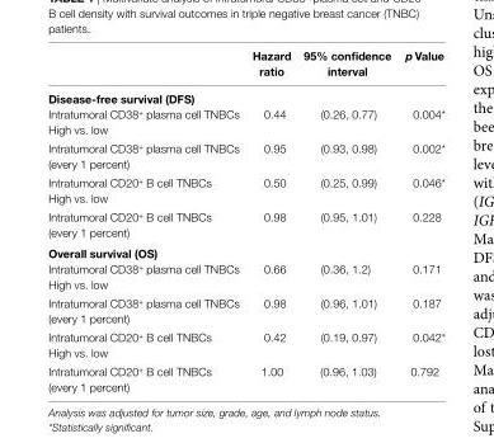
<table><thead><tr><td></td><td>hazard ratio</td><td>95% confidence interval</td><td>p Value</td></tr></thead><tbody><tr><td colspan="4">Disease-free survival (DFs)</td></tr><tr><td>Intratumoral CD38<sup>+</sup> plasma cell TNBCs High vs. low</td><td>0.44</td><td>(0.26, 0.77)</td><td>0.004*</td></tr><tr><td>Intratumoral CD38<sup>+</sup> plasma cell TNBCs (every 1 percent)</td><td>0.95</td><td>(0.93, 0.98)</td><td>0.002*</td></tr><tr><td>Intratumoral CD20<sup>+</sup> B cell TNBCs High vs. low</td><td>0.50</td><td>(0.25, 0.99)</td><td>0.046*</td></tr><tr><td>Intratumoral CD20<sup>+</sup> B cell TNBCs (every 1 percent)</td><td>0.98</td><td>(0.95, 1.01)</td><td>0.228</td></tr><tr><td colspan="4">Overall survival (Os)</td></tr><tr><td>Intratumoral CD38<sup>+</sup> plasma cell TNBCs High vs. low</td><td>0.66</td><td>(0.36, 1.2)</td><td>0.171</td></tr><tr><td>Intratumoral CD38<sup>+</sup> plasma cell TNBCs (every 1 percent)</td><td>0.98</td><td>(0.96, 1.01)</td><td>0.187</td></tr><tr><td>Intratumoral CD20<sup>+</sup> B cell TNBCs High vs. low</td><td>0.42</td><td>(0.19, 0.97)</td><td>0.042*</td></tr><tr><td>Intratumoral CD20<sup>+</sup> B cell TNBCs (every 1 percent)</td><td>1.00</td><td>(0.96, 1.03)</td><td>0.792</td></tr></tbody></table>